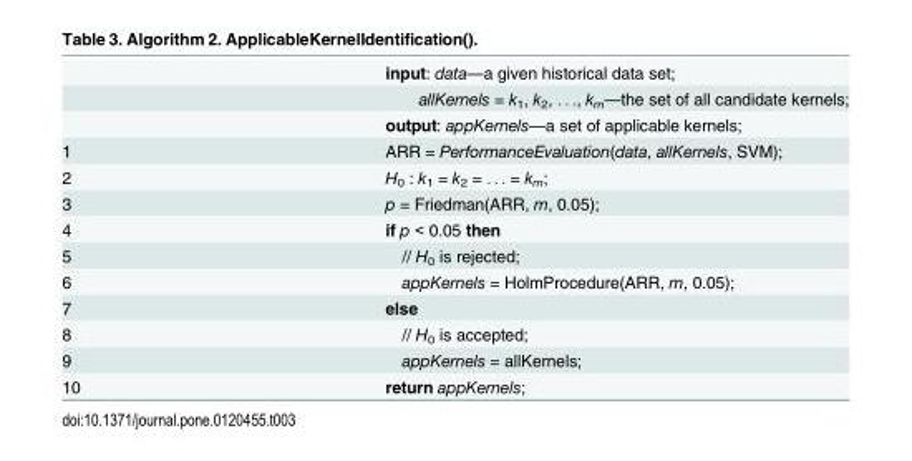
<table><thead><tr><td></td><td>input: data—a given historical data set;</td></tr></thead><tbody><tr><td></td><td>allKernels = k<sub>1</sub>, k<sub>2</sub>, . . ., k<sub>m</sub>—the set of all candidate kernels;</td></tr><tr><td></td><td>output: appKernels—a set of applicable kernels;</td></tr><tr><td>1</td><td>ARR = PerformanceEvaluation(data, allKernels, SVM);</td></tr><tr><td>2</td><td>H<sub>0</sub> : k<sub>1</sub> = k<sub>2</sub> = . . . = k<sub>m</sub>;</td></tr><tr><td>3</td><td>p = Friedman(ARR, m, 0.05);</td></tr><tr><td>4</td><td>if p &lt; 0.05 then</td></tr><tr><td>5</td><td>// H<sub>0</sub> is rejected;</td></tr><tr><td>6</td><td>appKernels = HolmProcedure(ARR, m, 0.05);</td></tr><tr><td>7</td><td>else</td></tr><tr><td>8</td><td>// H<sub>0</sub> is accepted;</td></tr><tr><td>9</td><td>appKernels = allKernels;</td></tr><tr><td>10</td><td>return appKernels;</td></tr></tbody></table>